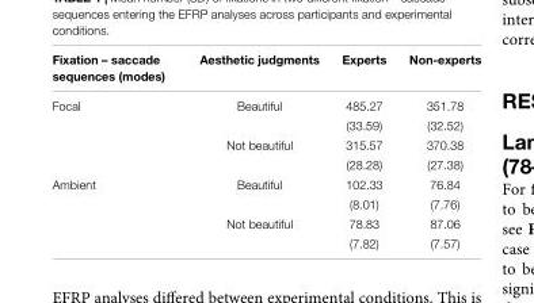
<table><thead><tr><td>Fixation – saccade sequences (modes)</td><td>Aesthetic judgments</td><td>Experts</td><td>Non-experts</td></tr></thead><tbody><tr><td rowspan="4">Focal</td><td>Beautiful</td><td>485.27</td><td>351.78</td></tr><tr><td></td><td>(33.59)</td><td>(32.52)</td></tr><tr><td>Not beautiful</td><td>315.57</td><td>370.38</td></tr><tr><td></td><td>(28.28)</td><td>(27.38)</td></tr><tr><td rowspan="4">Ambient</td><td>Beautiful</td><td>102.33</td><td>76.84</td></tr><tr><td></td><td>(8.01)</td><td>(7.76)</td></tr><tr><td>Not beautiful</td><td>78.83</td><td>87.06</td></tr><tr><td></td><td>(7.82)</td><td>(7.57)</td></tr></tbody></table>